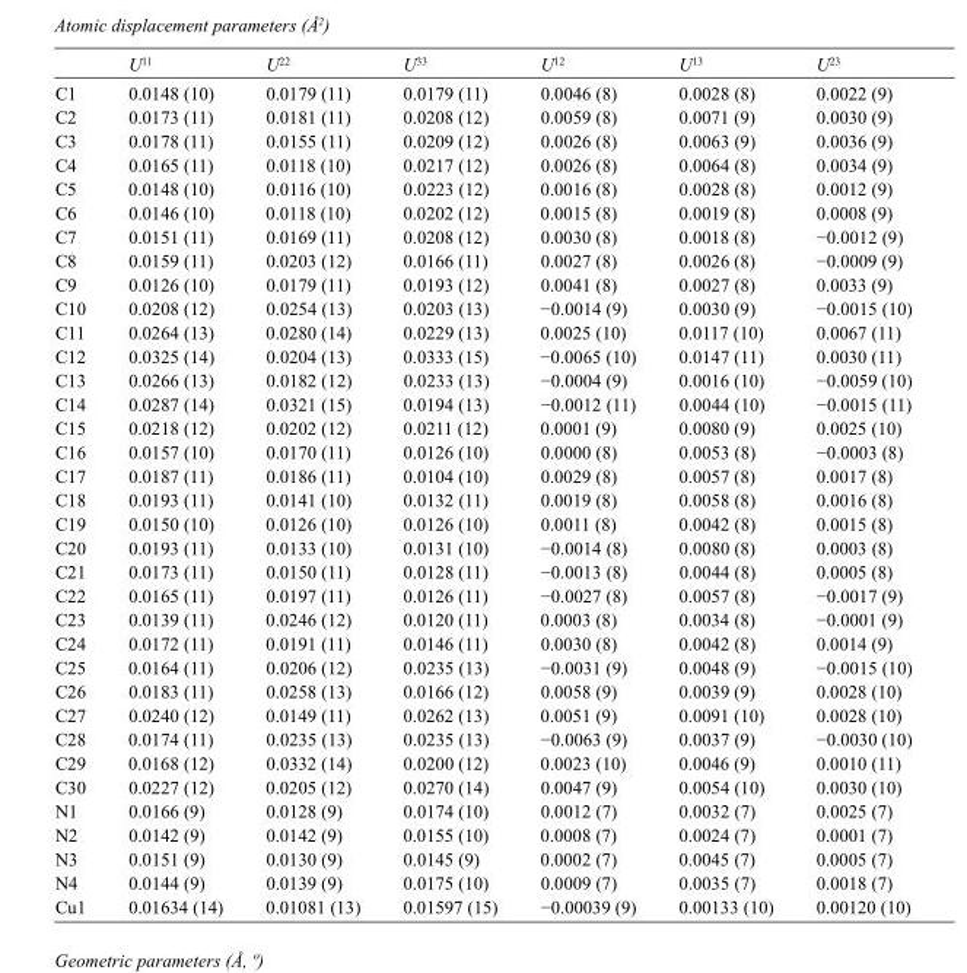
<table><thead><tr><td></td><td>U<sup>11</sup></td><td>U<sup>22</sup></td><td>U<sup>33</sup></td><td>U<sup>12</sup></td><td>U<sup>13</sup></td><td>U<sup>23</sup></td></tr></thead><tbody><tr><td>C1</td><td>0.0148 (10)</td><td>0.0179 (11)</td><td>0.0179 (11)</td><td>0.0046 (8)</td><td>0.0028 (8)</td><td>0.0022 (9)</td></tr><tr><td>C2</td><td>0.0173 (11)</td><td>0.0181 (11)</td><td>0.0208 (12)</td><td>0.0059 (8)</td><td>0.0071 (9)</td><td>0.0030 (9)</td></tr><tr><td>C3</td><td>0.0178 (11)</td><td>0.0155 (11)</td><td>0.0209 (12)</td><td>0.0026 (8)</td><td>0.0063 (9)</td><td>0.0036 (9)</td></tr><tr><td>C4</td><td>0.0165 (11)</td><td>0.0118 (10)</td><td>0.0217 (12)</td><td>0.0026 (8)</td><td>0.0064 (8)</td><td>0.0034 (9)</td></tr><tr><td>C5</td><td>0.0148 (10)</td><td>0.0116 (10)</td><td>0.0223 (12)</td><td>0.0016 (8)</td><td>0.0028 (8)</td><td>0.0012 (9)</td></tr><tr><td>C6</td><td>0.0146 (10)</td><td>0.0118 (10)</td><td>0.0202 (12)</td><td>0.0015 (8)</td><td>0.0019 (8)</td><td>0.0008 (9)</td></tr><tr><td>C7</td><td>0.0151 (11)</td><td>0.0169 (11)</td><td>0.0208 (12)</td><td>0.0030 (8)</td><td>0.0018 (8)</td><td>−0.0012 (9)</td></tr><tr><td>C8</td><td>0.0159 (11)</td><td>0.0203 (12)</td><td>0.0166 (11)</td><td>0.0027 (8)</td><td>0.0026 (8)</td><td>−0.0009 (9)</td></tr><tr><td>C9</td><td>0.0126 (10)</td><td>0.0179 (11)</td><td>0.0193 (12)</td><td>0.0041 (8)</td><td>0.0027 (8)</td><td>0.0033 (9)</td></tr><tr><td>C10</td><td>0.0208 (12)</td><td>0.0254 (13)</td><td>0.0203 (13)</td><td>−0.0014 (9)</td><td>0.0030 (9)</td><td>−0.0015 (10)</td></tr><tr><td>C11</td><td>0.0264 (13)</td><td>0.0280 (14)</td><td>0.0229 (13)</td><td>0.0025 (10)</td><td>0.0117 (10)</td><td>0.0067 (11)</td></tr><tr><td>C12</td><td>0.0325 (14)</td><td>0.0204 (13)</td><td>0.0333 (15)</td><td>−0.0065 (10)</td><td>0.0147 (11)</td><td>0.0030 (11)</td></tr><tr><td>C13</td><td>0.0266 (13)</td><td>0.0182 (12)</td><td>0.0233 (13)</td><td>−0.0004 (9)</td><td>0.0016 (10)</td><td>−0.0059 (10)</td></tr><tr><td>C14</td><td>0.0287 (14)</td><td>0.0321 (15)</td><td>0.0194 (13)</td><td>−0.0012 (11)</td><td>0.0044 (10)</td><td>−0.0015 (11)</td></tr><tr><td>C15</td><td>0.0218 (12)</td><td>0.0202 (12)</td><td>0.0211 (12)</td><td>0.0001 (9)</td><td>0.0080 (9)</td><td>0.0025 (10)</td></tr><tr><td>C16</td><td>0.0157 (10)</td><td>0.0170 (11)</td><td>0.0126 (10)</td><td>0.0000 (8)</td><td>0.0053 (8)</td><td>−0.0003 (8)</td></tr><tr><td>C17</td><td>0.0187 (11)</td><td>0.0186 (11)</td><td>0.0104 (10)</td><td>0.0029 (8)</td><td>0.0057 (8)</td><td>0.0017 (8)</td></tr><tr><td>C18</td><td>0.0193 (11)</td><td>0.0141 (10)</td><td>0.0132 (11)</td><td>0.0019 (8)</td><td>0.0058 (8)</td><td>0.0016 (8)</td></tr><tr><td>C19</td><td>0.0150 (10)</td><td>0.0126 (10)</td><td>0.0126 (10)</td><td>0.0011 (8)</td><td>0.0042 (8)</td><td>0.0015 (8)</td></tr><tr><td>C20</td><td>0.0193 (11)</td><td>0.0133 (10)</td><td>0.0131 (10)</td><td>−0.0014 (8)</td><td>0.0080 (8)</td><td>0.0003 (8)</td></tr><tr><td>C21</td><td>0.0173 (11)</td><td>0.0150 (11)</td><td>0.0128 (11)</td><td>−0.0013 (8)</td><td>0.0044 (8)</td><td>0.0005 (8)</td></tr><tr><td>C22</td><td>0.0165 (11)</td><td>0.0197 (11)</td><td>0.0126 (11)</td><td>−0.0027 (8)</td><td>0.0057 (8)</td><td>−0.0017 (9)</td></tr><tr><td>C23</td><td>0.0139 (11)</td><td>0.0246 (12)</td><td>0.0120 (11)</td><td>0.0003 (8)</td><td>0.0034 (8)</td><td>−0.0001 (9)</td></tr><tr><td>C24</td><td>0.0172 (11)</td><td>0.0191 (11)</td><td>0.0146 (11)</td><td>0.0030 (8)</td><td>0.0042 (8)</td><td>0.0014 (9)</td></tr><tr><td>C25</td><td>0.0164 (11)</td><td>0.0206 (12)</td><td>0.0235 (13)</td><td>−0.0031 (9)</td><td>0.0048 (9)</td><td>−0.0015 (10)</td></tr><tr><td>C26</td><td>0.0183 (11)</td><td>0.0258 (13)</td><td>0.0166 (12)</td><td>0.0058 (9)</td><td>0.0039 (9)</td><td>0.0028 (10)</td></tr><tr><td>C27</td><td>0.0240 (12)</td><td>0.0149 (11)</td><td>0.0262 (13)</td><td>0.0051 (9)</td><td>0.0091 (10)</td><td>0.0028 (10)</td></tr><tr><td>C28</td><td>0.0174 (11)</td><td>0.0235 (13)</td><td>0.0235 (13)</td><td>−0.0063 (9)</td><td>0.0037 (9)</td><td>−0.0030 (10)</td></tr><tr><td>C29</td><td>0.0168 (12)</td><td>0.0332 (14)</td><td>0.0200 (12)</td><td>0.0023 (10)</td><td>0.0046 (9)</td><td>0.0010 (11)</td></tr><tr><td>C30</td><td>0.0227 (12)</td><td>0.0205 (12)</td><td>0.0270 (14)</td><td>0.0047 (9)</td><td>0.0054 (10)</td><td>0.0030 (10)</td></tr><tr><td>N1</td><td>0.0166 (9)</td><td>0.0128 (9)</td><td>0.0174 (10)</td><td>0.0012 (7)</td><td>0.0032 (7)</td><td>0.0025 (7)</td></tr><tr><td>N2</td><td>0.0142 (9)</td><td>0.0142 (9)</td><td>0.0155 (10)</td><td>0.0008 (7)</td><td>0.0024 (7)</td><td>0.0001 (7)</td></tr><tr><td>N3</td><td>0.0151 (9)</td><td>0.0130 (9)</td><td>0.0145 (9)</td><td>0.0002 (7)</td><td>0.0045 (7)</td><td>0.0005 (7)</td></tr><tr><td>N4</td><td>0.0144 (9)</td><td>0.0139 (9)</td><td>0.0175 (10)</td><td>0.0009 (7)</td><td>0.0035 (7)</td><td>0.0018 (7)</td></tr><tr><td>Cu1</td><td>0.01634 (14)</td><td>0.01081 (13)</td><td>0.01597 (15)</td><td>−0.00039 (9)</td><td>0.00133 (10)</td><td>0.00120 (10)</td></tr></tbody></table>